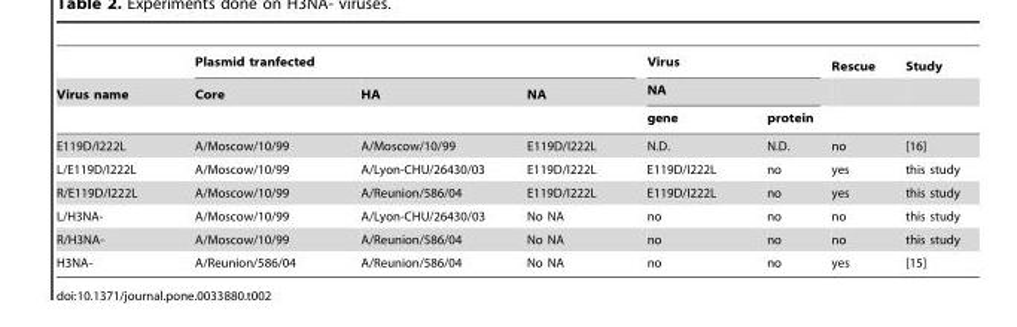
<table><thead><tr><td rowspan="3">Virus name</td><td colspan="3">Plasmid tranfected</td><td rowspan="2" colspan="2">Virus NA</td><td rowspan="3">Rescue</td><td rowspan="3">Study</td></tr><tr><td rowspan="2">Core</td><td rowspan="2">HA</td><td rowspan="2">NA</td></tr><tr><td>gene</td><td>protein</td></tr></thead><tbody><tr><td>E119D/I222L</td><td>A/Moscow/10/99</td><td>A/Moscow/10/99</td><td>E119D/I222L</td><td>N.D.</td><td>N.D.</td><td>no</td><td>[16]</td></tr><tr><td>L/E119D/I222L</td><td>A/Moscow/10/99</td><td>A/Lyon-CHU/26430/03</td><td>E119D/I222L</td><td>E119D/I222L</td><td>no</td><td>yes</td><td>this study</td></tr><tr><td>R/E119D/I222L</td><td>A/Moscow/10/99</td><td>A/Reunion/586/04</td><td>E119D/I222L</td><td>E119D/I222L</td><td>no</td><td>yes</td><td>this study</td></tr><tr><td>L/H3NA-</td><td>A/Moscow/10/99</td><td>A/Lyon-CHU/26430/03</td><td>No NA</td><td>no</td><td>no</td><td>no</td><td>this study</td></tr><tr><td>R/H3NA-</td><td>A/Moscow/10/99</td><td>A/Reunion/586/04</td><td>No NA</td><td>no</td><td>no</td><td>no</td><td>this study</td></tr><tr><td>H3NA-</td><td>A/Reunion/586/04</td><td>A/Reunion/586/04</td><td>No NA</td><td>no</td><td>no</td><td>yes</td><td>[15]</td></tr></tbody></table>